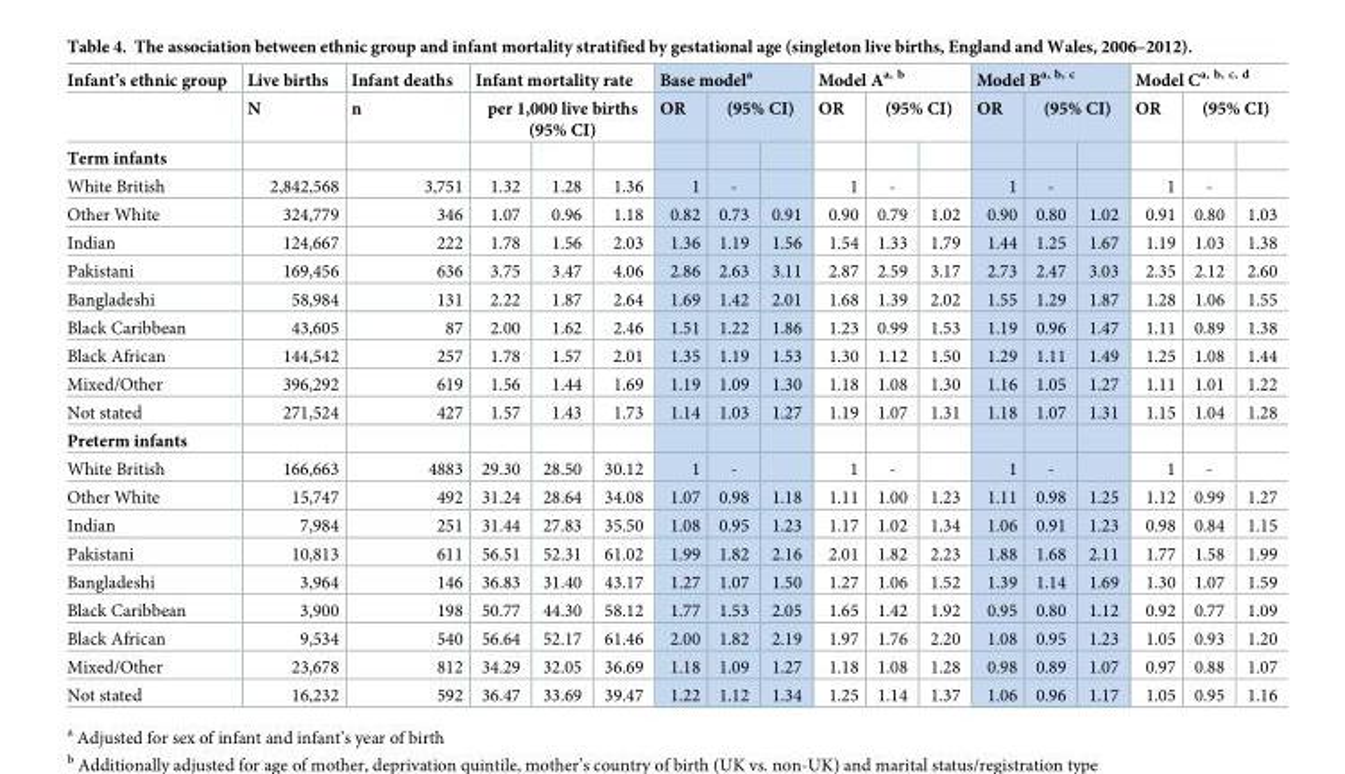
<table><thead><tr><td rowspan="3">Infant’s ethnic group Term infants</td><td rowspan="3">Live births N</td><td rowspan="3">Infant deaths n</td><td rowspan="2" colspan="3">Infant mortality rate per 1,000 live births (95% CI)</td><td colspan="3">Base model<sup>a</sup></td><td colspan="3">Model A<sup>a, b</sup></td><td colspan="3">Model B<sup>a, b, c</sup></td><td colspan="3">Model C<sup>a, b, c, d</sup></td></tr><tr><td rowspan="2">OR</td><td colspan="2">(95% CI)</td><td rowspan="2">OR</td><td colspan="2">(95% CI)</td><td rowspan="2">OR</td><td colspan="2">(95% CI)</td><td rowspan="2">OR</td><td colspan="2">(95% CI)</td></tr><tr><td></td><td></td><td></td><td></td><td></td><td></td><td></td><td></td><td></td><td></td><td></td></tr></thead><tbody><tr><td>White British</td><td>2,842,568</td><td>3,751</td><td>1.32</td><td>1.28</td><td>1.36</td><td>1</td><td>-</td><td></td><td>1</td><td>-</td><td></td><td>1</td><td>-</td><td></td><td>1</td><td>-</td><td></td></tr><tr><td>Other White</td><td>324,779</td><td>346</td><td>1.07</td><td>0.96</td><td>1.18</td><td>0.82</td><td>0.73</td><td>0.91</td><td>0.90</td><td>0.79</td><td>1.02</td><td>0.90</td><td>0.80</td><td>1.02</td><td>0.91</td><td>0.80</td><td>1.03</td></tr><tr><td>Indian</td><td>124,667</td><td>222</td><td>1.78</td><td>1.56</td><td>2.03</td><td>1.36</td><td>1.19</td><td>1.56</td><td>1.54</td><td>1.33</td><td>1.79</td><td>1.44</td><td>1.25</td><td>1.67</td><td>1.19</td><td>1.03</td><td>1.38</td></tr><tr><td>Pakistani</td><td>169,456</td><td>636</td><td>3.75</td><td>3.47</td><td>4.06</td><td>2.86</td><td>2.63</td><td>3.11</td><td>2.87</td><td>2.59</td><td>3.17</td><td>2.73</td><td>2.47</td><td>3.03</td><td>2.35</td><td>2.12</td><td>2.60</td></tr><tr><td>Bangladeshi</td><td>58,984</td><td>131</td><td>2.22</td><td>1.87</td><td>2.64</td><td>1.69</td><td>1.42</td><td>2.01</td><td>1.68</td><td>1.39</td><td>2.02</td><td>1.55</td><td>1.29</td><td>1.87</td><td>1.28</td><td>1.06</td><td>1.55</td></tr><tr><td>Black Caribbean</td><td>43,605</td><td>87</td><td>2.00</td><td>1.62</td><td>2.46</td><td>1.51</td><td>1.22</td><td>1.86</td><td>1.23</td><td>0.99</td><td>1.53</td><td>1.19</td><td>0.96</td><td>1.47</td><td>1.11</td><td>0.89</td><td>1.38</td></tr><tr><td>Black African</td><td>144,542</td><td>257</td><td>1.78</td><td>1.57</td><td>2.01</td><td>1.35</td><td>1.19</td><td>1.53</td><td>1.30</td><td>1.12</td><td>1.50</td><td>1.29</td><td>1.11</td><td>1.49</td><td>1.25</td><td>1.08</td><td>1.44</td></tr><tr><td>Mixed/Other</td><td>396,292</td><td>619</td><td>1.56</td><td>1.44</td><td>1.69</td><td>1.19</td><td>1.09</td><td>1.30</td><td>1.18</td><td>1.08</td><td>1.30</td><td>1.16</td><td>1.05</td><td>1.27</td><td>1.11</td><td>1.01</td><td>1.22</td></tr><tr><td>Not stated</td><td>271,524</td><td>427</td><td>1.57</td><td>1.43</td><td>1.73</td><td>1.14</td><td>1.03</td><td>1.27</td><td>1.19</td><td>1.07</td><td>1.31</td><td>1.18</td><td>1.07</td><td>1.31</td><td>1.15</td><td>1.04</td><td>1.28</td></tr><tr><td colspan="18">Preterm infants</td></tr><tr><td>White British</td><td>166,663</td><td>4883</td><td>29.30</td><td>28.50</td><td>30.12</td><td>1</td><td>-</td><td></td><td>1</td><td>-</td><td></td><td>1</td><td>-</td><td></td><td>1</td><td>-</td><td></td></tr><tr><td>Other White</td><td>15,747</td><td>492</td><td>31.24</td><td>28.64</td><td>34.08</td><td>1.07</td><td>0.98</td><td>1.18</td><td>1.11</td><td>1.00</td><td>1.23</td><td>1.11</td><td>0.98</td><td>1.25</td><td>1.12</td><td>0.99</td><td>1.27</td></tr><tr><td>Indian</td><td>7,984</td><td>251</td><td>31.44</td><td>27.83</td><td>35.50</td><td>1.08</td><td>0.95</td><td>1.23</td><td>1.17</td><td>1.02</td><td>1.34</td><td>1.06</td><td>0.91</td><td>1.23</td><td>0.98</td><td>0.84</td><td>1.15</td></tr><tr><td>Pakistani</td><td>10,813</td><td>611</td><td>56.51</td><td>52.31</td><td>61.02</td><td>1.99</td><td>1.82</td><td>2.16</td><td>2.01</td><td>1.82</td><td>2.23</td><td>1.88</td><td>1.68</td><td>2.11</td><td>1.77</td><td>1.58</td><td>1.99</td></tr><tr><td>Bangladeshi</td><td>3,964</td><td>146</td><td>36.83</td><td>31.40</td><td>43.17</td><td>1.27</td><td>1.07</td><td>1.50</td><td>1.27</td><td>1.06</td><td>1.52</td><td>1.39</td><td>1.14</td><td>1.69</td><td>1.30</td><td>1.07</td><td>1.59</td></tr><tr><td>Black Caribbean</td><td>3,900</td><td>198</td><td>50.77</td><td>44.30</td><td>58.12</td><td>1.77</td><td>1.53</td><td>2.05</td><td>1.65</td><td>1.42</td><td>1.92</td><td>0.95</td><td>0.80</td><td>1.12</td><td>0.92</td><td>0.77</td><td>1.09</td></tr><tr><td>Black African</td><td>9,534</td><td>540</td><td>56.64</td><td>52.17</td><td>61.46</td><td>2.00</td><td>1.82</td><td>2.19</td><td>1.97</td><td>1.76</td><td>2.20</td><td>1.08</td><td>0.95</td><td>1.23</td><td>1.05</td><td>0.93</td><td>1.20</td></tr><tr><td>Mixed/Other</td><td>23,678</td><td>812</td><td>34.29</td><td>32.05</td><td>36.69</td><td>1.18</td><td>1.09</td><td>1.27</td><td>1.18</td><td>1.08</td><td>1.28</td><td>0.98</td><td>0.89</td><td>1.07</td><td>0.97</td><td>0.88</td><td>1.07</td></tr><tr><td>Not stated</td><td>16,232</td><td>592</td><td>36.47</td><td>33.69</td><td>39.47</td><td>1.22</td><td>1.12</td><td>1.34</td><td>1.25</td><td>1.14</td><td>1.37</td><td>1.06</td><td>0.96</td><td>1.17</td><td>1.05</td><td>0.95</td><td>1.16</td></tr></tbody></table>